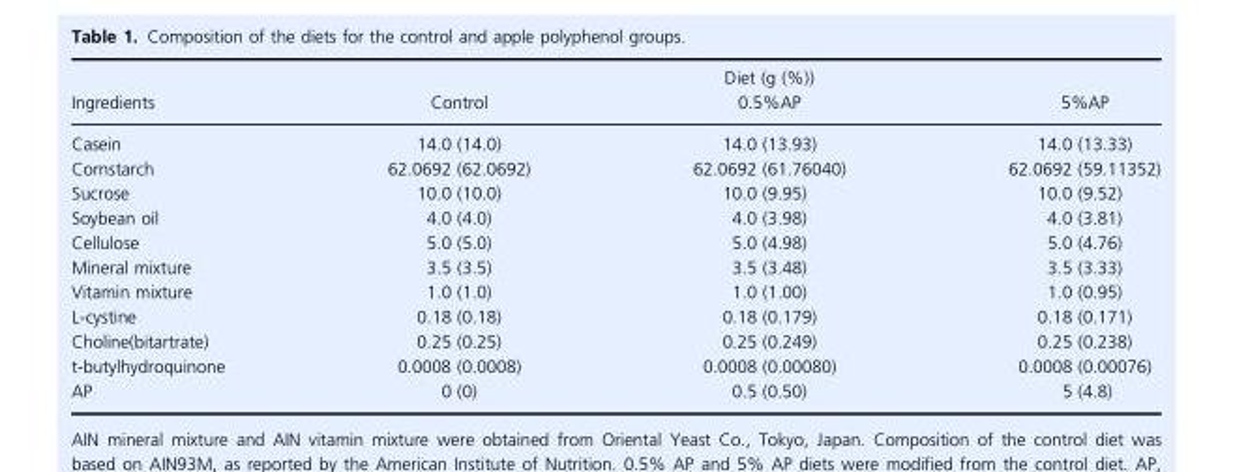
<table><thead><tr><td rowspan="2">Ingredients</td><td rowspan="2">Control</td><td rowspan="2">Diet (g (%)) 0.5%AP</td><td rowspan="2">5%AP</td></tr><tr></tr></thead><tbody><tr><td>Casein</td><td>14.0 (14.0)</td><td>14.0 (13.93)</td><td>14.0 (13.33)</td></tr><tr><td>Cornstarch</td><td>62.0692 (62.0692)</td><td>62.0692 (61.76040)</td><td>62.0692 (59.11352)</td></tr><tr><td>Sucrose</td><td>10.0 (10.0)</td><td>10.0 (9.95)</td><td>10.0 (9.52)</td></tr><tr><td>Soybean oil</td><td>4.0 (4.0)</td><td>4.0 (3.98)</td><td>4.0 (3.81)</td></tr><tr><td>Cellulose</td><td>5.0 (5.0)</td><td>5.0 (4.98)</td><td>5.0 (4.76)</td></tr><tr><td>Mineral mixture</td><td>3.5 (3.5)</td><td>3.5 (3.48)</td><td>3.5 (3.33)</td></tr><tr><td>Vitamin mixture</td><td>1.0 (1.0)</td><td>1.0 (1.00)</td><td>1.0 (0.95)</td></tr><tr><td>L-cystine</td><td>0.18 (0.18)</td><td>0.18 (0.179)</td><td>0.18 (0.171)</td></tr><tr><td>Choline(bitartrate)</td><td>0.25 (0.25)</td><td>0.25 (0.249)</td><td>0.25 (0.238)</td></tr><tr><td>t-butylhydroquinone</td><td>0.0008 (0.0008)</td><td>0.0008 (0.00080)</td><td>0.0008 (0.00076)</td></tr><tr><td>AP</td><td>0 (0)</td><td>0.5 (0.50)</td><td>5 (4.8)</td></tr></tbody></table>